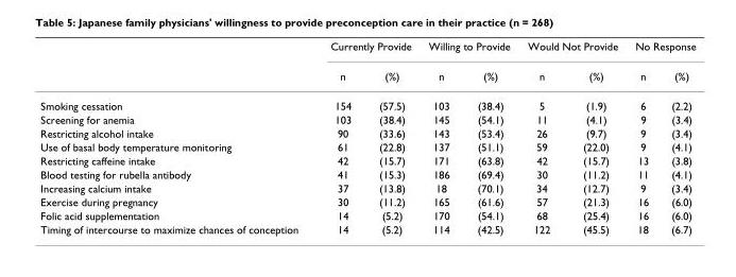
<table><thead><tr><td rowspan="2"></td><td colspan="2">Currently Provide</td><td colspan="2">Willing to Provide</td><td colspan="2">Would Not Provide</td><td colspan="2">No Response</td></tr><tr><td>n</td><td>(%)</td><td>n</td><td>(%)</td><td>n</td><td>(%)</td><td>n</td><td>(%)</td></tr></thead><tbody><tr><td>Smoking cessation</td><td>154</td><td>(57.5)</td><td>103</td><td>(38.4)</td><td>5</td><td>(1.9)</td><td>6</td><td>(2.2)</td></tr><tr><td>Screening for anemia</td><td>103</td><td>(38.4)</td><td>145</td><td>(54.1)</td><td>11</td><td>(4.1)</td><td>9</td><td>(3.4)</td></tr><tr><td>Restricting alcohol intake</td><td>90</td><td>(33.6)</td><td>143</td><td>(53.4)</td><td>26</td><td>(9.7)</td><td>9</td><td>(3.4)</td></tr><tr><td>Use of basal body temperature monitoring</td><td>61</td><td>(22.8)</td><td>137</td><td>(51.1)</td><td>59</td><td>(22.0)</td><td>9</td><td>(4.1)</td></tr><tr><td>Restricting caffeine intake</td><td>42</td><td>(15.7)</td><td>171</td><td>(63.8)</td><td>42</td><td>(15.7)</td><td>13</td><td>(3.8)</td></tr><tr><td>Blood testing for rubella antibody</td><td>41</td><td>(15.3)</td><td>186</td><td>(69.4)</td><td>30</td><td>(11.2)</td><td>11</td><td>(4.1)</td></tr><tr><td>Increasing calcium intake</td><td>37</td><td>(13.8)</td><td>18</td><td>(70.1)</td><td>34</td><td>(12.7)</td><td>9</td><td>(3.4)</td></tr><tr><td>Exercise during pregnancy</td><td>30</td><td>(11.2)</td><td>165</td><td>(61.6)</td><td>57</td><td>(21.3)</td><td>16</td><td>(6.0)</td></tr><tr><td>Folic acid supplementation</td><td>14</td><td>(5.2)</td><td>170</td><td>(54.1)</td><td>68</td><td>(25.4)</td><td>16</td><td>(6.0)</td></tr><tr><td>Timing of intercourse to maximize chances of conception</td><td>14</td><td>(5.2)</td><td>114</td><td>(42.5)</td><td>122</td><td>(45.5)</td><td>18</td><td>(6.7)</td></tr></tbody></table>